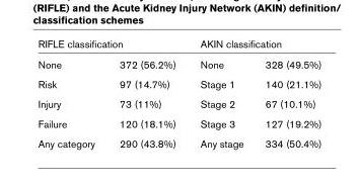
<table><thead><tr><td colspan="2">RIFLE classification</td><td colspan="2">AKIN classification</td></tr><tr><td>None</td><td>372 (56.2%)</td><td>None</td><td>328 (49.5%)</td></tr></thead><tbody><tr><td>Risk</td><td>97 (14.7%)</td><td>Stage 1</td><td>140 (21.1%)</td></tr><tr><td>Injury</td><td>73 (11%)</td><td>Stage 2</td><td>67 (10.1%)</td></tr><tr><td>Failure</td><td>120 (18.1%)</td><td>Stage 3</td><td>127 (19.2%)</td></tr><tr><td>Any category</td><td>290 (43.8%)</td><td>Any stage</td><td>334 (50.4%)</td></tr></tbody></table>